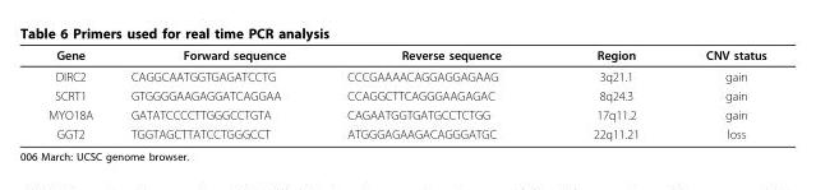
<table><thead><tr><td>Gene</td><td>Forward sequence</td><td>Reverse sequence</td><td>Region</td><td>CNV status</td></tr></thead><tbody><tr><td>DIRC2</td><td>CAGGCAATGGTGAGATCCTG</td><td>CCCGAAAACAGGAGGAGAAG</td><td>3q21.1</td><td>gain</td></tr><tr><td>SCRT1</td><td>GTGGGGAAGAGGATCAGGAA</td><td>CCAGGCTTCAGGGAAGAGAC</td><td>8q24.3</td><td>gain</td></tr><tr><td>MYO18A</td><td>GATATCCCCTTGGGCCTGTA</td><td>CAGAATGGTGATGCCTCTGG</td><td>17q11.2</td><td>gain</td></tr><tr><td>GGT2</td><td>TGGTAGCTTATCCTGGGCCT</td><td>ATGGGAGAAGACAGGGATGC</td><td>22q11.21</td><td>loss</td></tr></tbody></table>